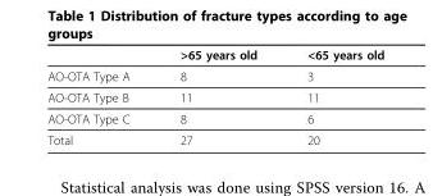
<table><thead><tr><td></td><td>&gt;65 years old</td><td>&lt;65 years old</td></tr></thead><tbody><tr><td>AO-OTA Type A</td><td>8</td><td>3</td></tr><tr><td>AO-OTA Type B</td><td>11</td><td>11</td></tr><tr><td>AO-OTA Type C</td><td>8</td><td>6</td></tr><tr><td>Total</td><td>27</td><td>20</td></tr></tbody></table>